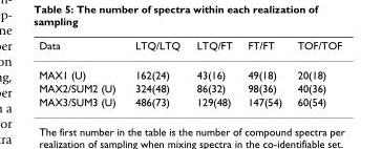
<table><thead><tr><td>Data</td><td>LTQ/LTQ</td><td>LTQ/FT</td><td>FT/FT</td><td>TOF/TOF</td></tr></thead><tbody><tr><td>MAX1 (U)</td><td>162(24)</td><td>43(16)</td><td>49(18)</td><td>20(18)</td></tr><tr><td>MAX2/SUM2 (U)</td><td>324(48)</td><td>86(32)</td><td>98(36)</td><td>40(36)</td></tr><tr><td>MAX3/SUM3 (U)</td><td>486(73)</td><td>129(48)</td><td>147(54)</td><td>60(54)</td></tr></tbody></table>